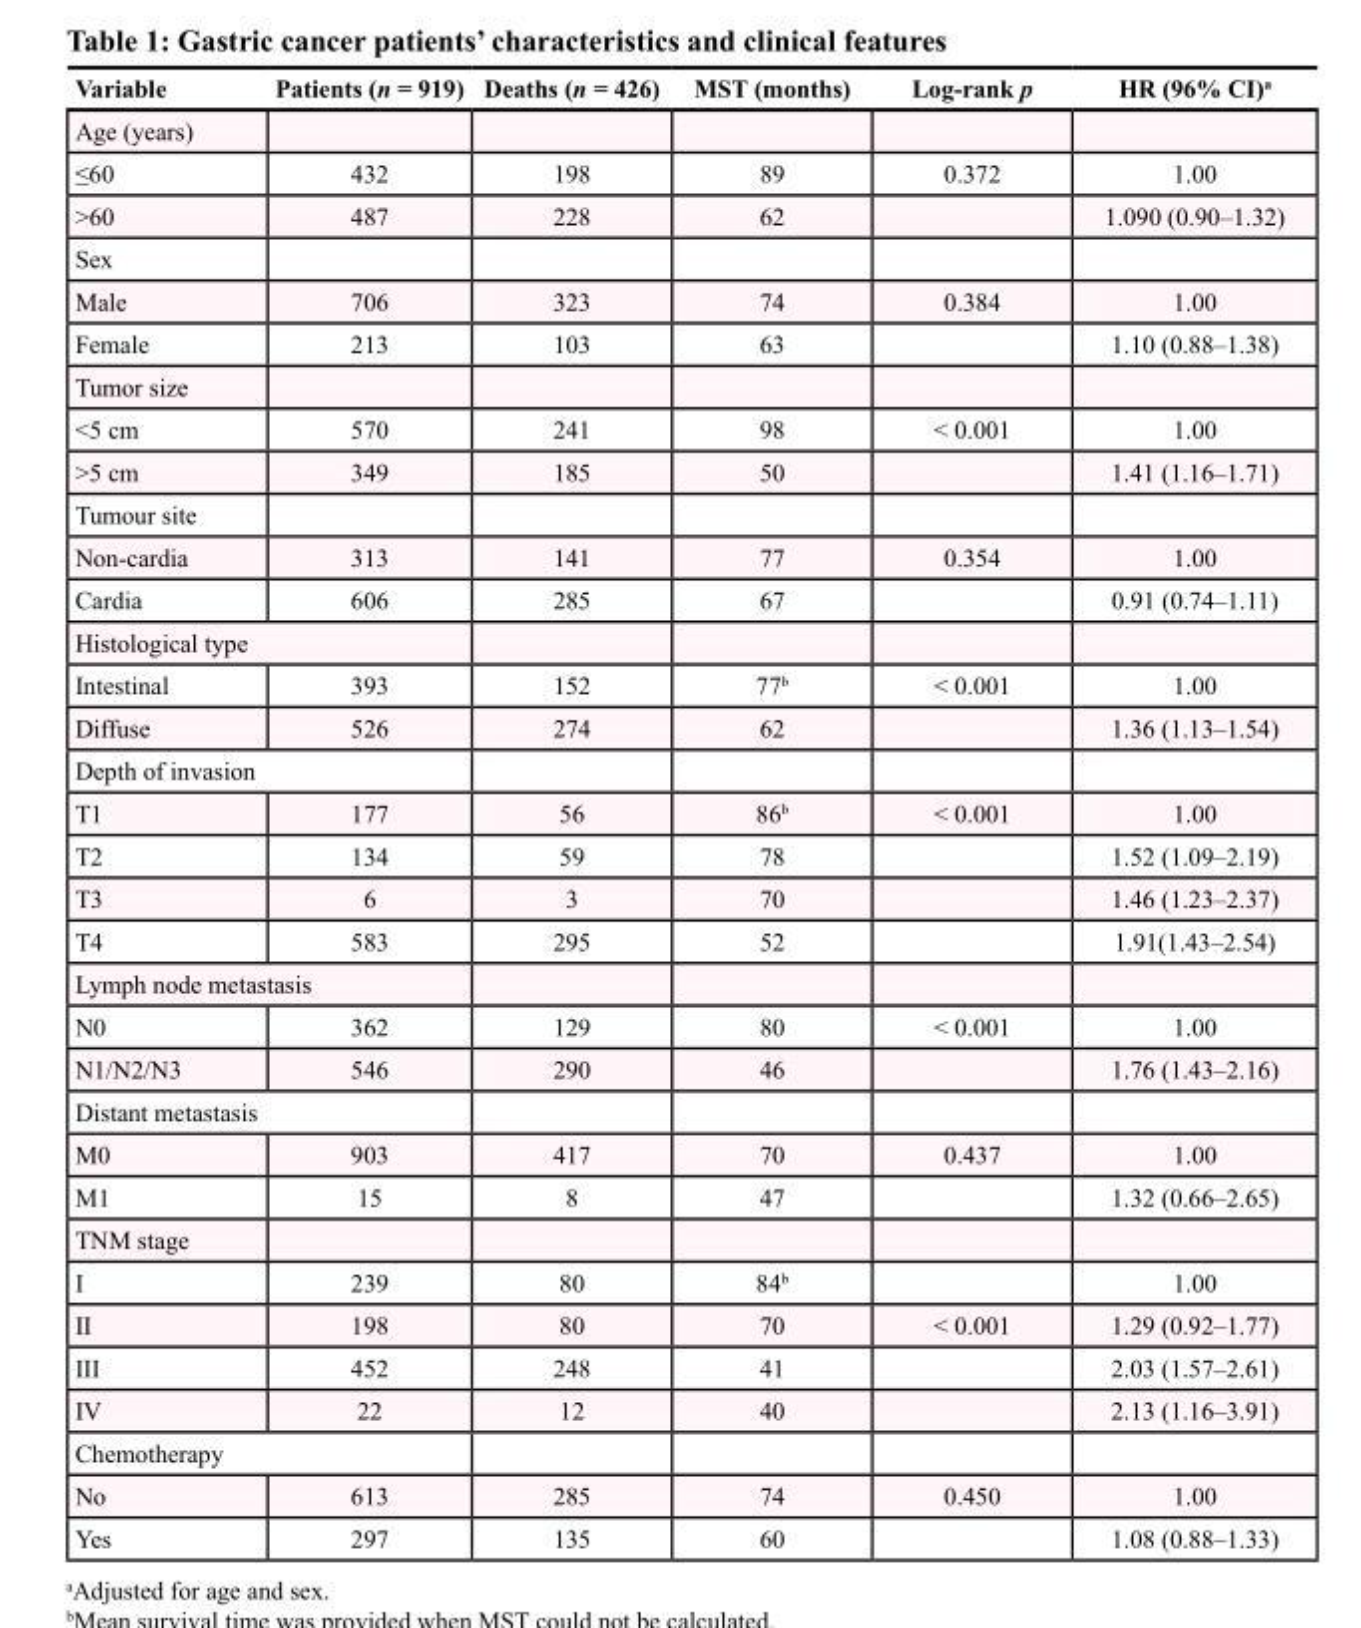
<table><thead><tr><td>Variable</td><td>Patients (n = 919)</td><td>Deaths (n = 426)</td><td>MST (months)</td><td>Log-rank p</td><td>HR (96% CI)<sup>a</sup></td></tr></thead><tbody><tr><td colspan="6">Age (years)</td></tr><tr><td>≤60</td><td>432</td><td>198</td><td>89</td><td>0.372</td><td>1.00</td></tr><tr><td>&gt;60</td><td>487</td><td>228</td><td>62</td><td></td><td>1.090 (0.90–1.32)</td></tr><tr><td colspan="6">Sex</td></tr><tr><td>Male</td><td>706</td><td>323</td><td>74</td><td>0.384</td><td>1.00</td></tr><tr><td>Female</td><td>213</td><td>103</td><td>63</td><td></td><td>1.10 (0.88–1.38)</td></tr><tr><td colspan="6">Tumor size</td></tr><tr><td>&lt;5 cm</td><td>570</td><td>241</td><td>98</td><td>&lt; 0.001</td><td>1.00</td></tr><tr><td>&gt;5 cm</td><td>349</td><td>185</td><td>50</td><td></td><td>1.41 (1.16–1.71)</td></tr><tr><td colspan="6">Tumour site</td></tr><tr><td>Non-cardia</td><td>313</td><td>141</td><td>77</td><td>0.354</td><td>1.00</td></tr><tr><td>Cardia</td><td>606</td><td>285</td><td>67</td><td></td><td>0.91 (0.74–1.11)</td></tr><tr><td colspan="6">Histological type</td></tr><tr><td>Intestinal</td><td>393</td><td>152</td><td>77<sup>b</sup></td><td>&lt; 0.001</td><td>1.00</td></tr><tr><td>Diffuse</td><td>526</td><td>274</td><td>62</td><td></td><td>1.36 (1.13–1.54)</td></tr><tr><td colspan="6">Depth of invasion</td></tr><tr><td>T1</td><td>177</td><td>56</td><td>86<sup>b</sup></td><td>&lt; 0.001</td><td>1.00</td></tr><tr><td>T2</td><td>134</td><td>59</td><td>78</td><td></td><td>1.52 (1.09–2.19)</td></tr><tr><td>T3</td><td>6</td><td>3</td><td>70</td><td></td><td>1.46 (1.23–2.37)</td></tr><tr><td>T4</td><td>583</td><td>295</td><td>52</td><td></td><td>1.91(1.43–2.54)</td></tr><tr><td colspan="6">Lymph node metastasis</td></tr><tr><td>N0</td><td>362</td><td>129</td><td>80</td><td>&lt; 0.001</td><td>1.00</td></tr><tr><td>N1/N2/N3</td><td>546</td><td>290</td><td>46</td><td></td><td>1.76 (1.43–2.16)</td></tr><tr><td colspan="6">Distant metastasis</td></tr><tr><td>M0</td><td>903</td><td>417</td><td>70</td><td>0.437</td><td>1.00</td></tr><tr><td>M1</td><td>15</td><td>8</td><td>47</td><td></td><td>1.32 (0.66–2.65)</td></tr><tr><td colspan="6">TNM stage</td></tr><tr><td>I</td><td>239</td><td>80</td><td>84<sup>b</sup></td><td></td><td>1.00</td></tr><tr><td>II</td><td>198</td><td>80</td><td>70</td><td>&lt; 0.001</td><td>1.29 (0.92–1.77)</td></tr><tr><td>III</td><td>452</td><td>248</td><td>41</td><td></td><td>2.03 (1.57–2.61)</td></tr><tr><td>IV</td><td>22</td><td>12</td><td>40</td><td></td><td>2.13 (1.16–3.91)</td></tr><tr><td colspan="6">Chemotherapy</td></tr><tr><td>No</td><td>613</td><td>285</td><td>74</td><td>0.450</td><td>1.00</td></tr><tr><td>Yes</td><td>297</td><td>135</td><td>60</td><td></td><td>1.08 (0.88–1.33)</td></tr></tbody></table>